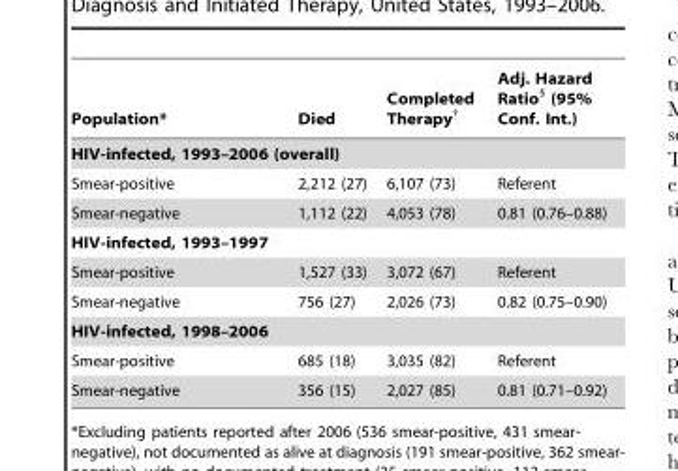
<table><thead><tr><td>Population*</td><td>Died</td><td>Completed Therapy†</td><td>Adj. Hazard Ratio§ (95% Conf. Int.)</td></tr></thead><tbody><tr><td colspan="4">HIV-infected, 1993–2006 (overall)</td></tr><tr><td>Smear-positive</td><td>2,212 (27)</td><td>6,107 (73)</td><td>Referent</td></tr><tr><td>Smear-negative</td><td>1,112 (22)</td><td>4,053 (78)</td><td>0.81 (0.76–0.88)</td></tr><tr><td colspan="4">HIV-infected, 1993–1997</td></tr><tr><td>Smear-positive</td><td>1,527 (33)</td><td>3,072 (67)</td><td>Referent</td></tr><tr><td>Smear-negative</td><td>756 (27)</td><td>2,026 (73)</td><td>0.82 (0.75–0.90)</td></tr><tr><td colspan="4">HIV-infected, 1998–2006</td></tr><tr><td>Smear-positive</td><td>685 (18)</td><td>3,035 (82)</td><td>Referent</td></tr><tr><td>Smear-negative</td><td>356 (15)</td><td>2,027 (85)</td><td>0.81 (0.71–0.92)</td></tr></tbody></table>